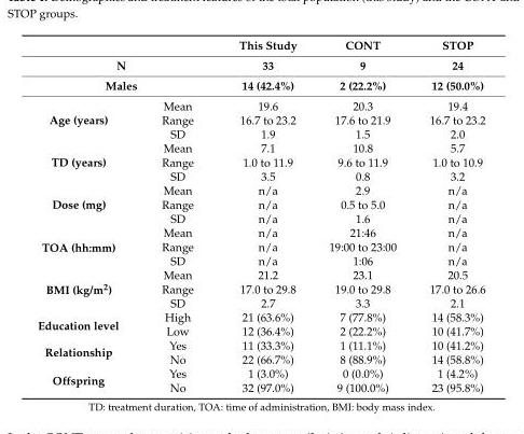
<table><thead><tr><td></td><td></td><td rowspan="3">This Study 33 14 (42.4%)</td><td rowspan="3">CONT 9 2 (22.2%)</td><td rowspan="3">STOP 24 12 (50.0%)</td></tr><tr><td rowspan="2" colspan="2">N Males</td></tr><tr></tr></thead><tbody><tr><td rowspan="3">Age (years)</td><td>Mean</td><td>19.6</td><td>20.3</td><td>19.4</td></tr><tr><td>Range</td><td>16.7 to 23.2</td><td>17.6 to 21.9</td><td>16.7 to 23.2</td></tr><tr><td>SD</td><td>1.9</td><td>1.5</td><td>2.0</td></tr><tr><td rowspan="3">TD (years)</td><td>Mean</td><td>7.1</td><td>10.8</td><td>5.7</td></tr><tr><td>Range</td><td>1.0 to 11.9</td><td>9.6 to 11.9</td><td>1.0 to 10.9</td></tr><tr><td>SD</td><td>3.5</td><td>0.8</td><td>3.2</td></tr><tr><td rowspan="3">Dose (mg)</td><td>Mean</td><td>n/a</td><td>2.9</td><td>n/a</td></tr><tr><td>Range</td><td>n/a</td><td>0.5 to 5.0</td><td>n/a</td></tr><tr><td>SD</td><td>n/a</td><td>1.6</td><td>n/a</td></tr><tr><td rowspan="3">TOA (hh:mm)</td><td>Mean</td><td>n/a</td><td>21:46</td><td>n/a</td></tr><tr><td>Range</td><td>n/a</td><td>19:00 to 23:00</td><td>n/a</td></tr><tr><td>SD</td><td>n/a</td><td>1:06</td><td>n/a</td></tr><tr><td rowspan="3">BMI (kg/m<sup>2</sup>)</td><td>Mean</td><td>21.2</td><td>23.1</td><td>20.5</td></tr><tr><td>Range</td><td>17.0 to 29.8</td><td>19.0 to 29.8</td><td>17.0 to 26.6</td></tr><tr><td>SD</td><td>2.7</td><td>3.3</td><td>2.1</td></tr><tr><td rowspan="2">Education level</td><td>High</td><td>21 (63.6%)</td><td>7 (77.8%)</td><td>14 (58.3%)</td></tr><tr><td>Low</td><td>12 (36.4%)</td><td>2 (22.2%)</td><td>10 (41.7%)</td></tr><tr><td rowspan="2">Relationship</td><td>Yes</td><td>11 (33.3%)</td><td>1 (11.1%)</td><td>10 (41.2%)</td></tr><tr><td>No</td><td>22 (66.7%)</td><td>8 (88.9%)</td><td>14 (58.8%)</td></tr><tr><td rowspan="2">Offspring</td><td>Yes</td><td>1 (3.0%)</td><td>0 (0.0%)</td><td>1 (4.2%)</td></tr><tr><td>No</td><td>32 (97.0%)</td><td>9 (100.0%)</td><td>23 (95.8%)</td></tr></tbody></table>